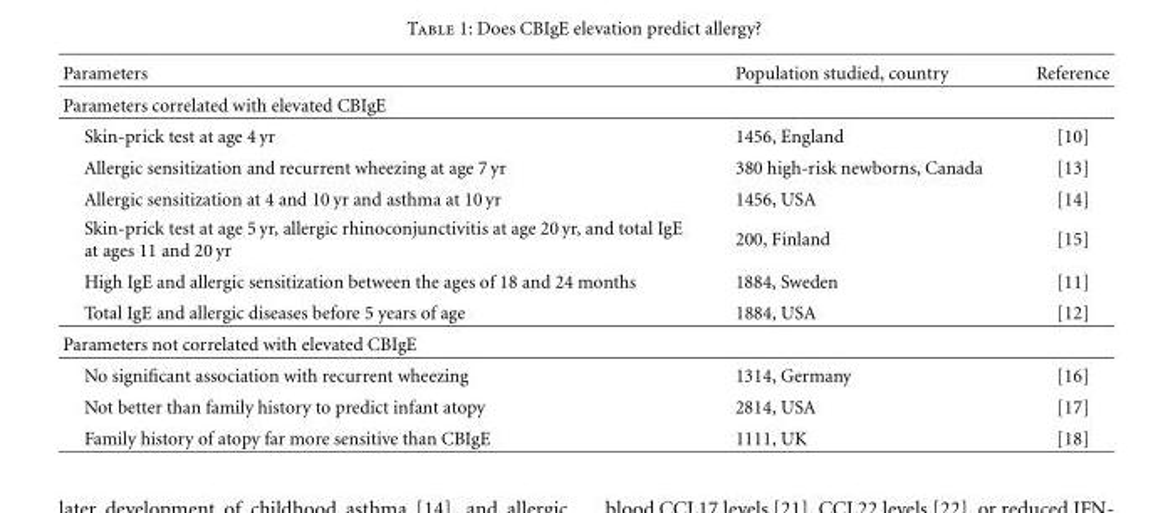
<table><thead><tr><td>Parameters</td><td>Population studied, country</td><td>Reference</td></tr></thead><tbody><tr><td colspan="3">Parameters correlated with elevated CBIgE</td></tr><tr><td>Skin-prick test at age 4 yr</td><td>1456, England</td><td>[10]</td></tr><tr><td>Allergic sensitization and recurrent wheezing at age 7 yr</td><td>380 high-risk newborns, Canada</td><td>[13]</td></tr><tr><td>Allergic sensitization at 4 and 10 yr and asthma at 10 yr</td><td>1456, USA</td><td>[14]</td></tr><tr><td>Skin-prick test at age 5 yr, allergic rhinoconjunctivitis at age 20 yr, and total IgE at ages 11 and 20 yr</td><td>200, Finland</td><td>[15]</td></tr><tr><td>High IgE and allergic sensitization between the ages of 18 and 24 months</td><td>1884, Sweden</td><td>[11]</td></tr><tr><td>Total IgE and allergic diseases before 5 years of age</td><td>1884, USA</td><td>[12]</td></tr><tr><td colspan="3">Parameters not correlated with elevated CBIgE</td></tr><tr><td>No significant association with recurrent wheezing</td><td>1314, Germany</td><td>[16]</td></tr><tr><td>Not better than family history to predict infant atopy</td><td>2814, USA</td><td>[17]</td></tr><tr><td>Family history of atopy far more sensitive than CBIgE</td><td>1111, UK</td><td>[18]</td></tr></tbody></table>